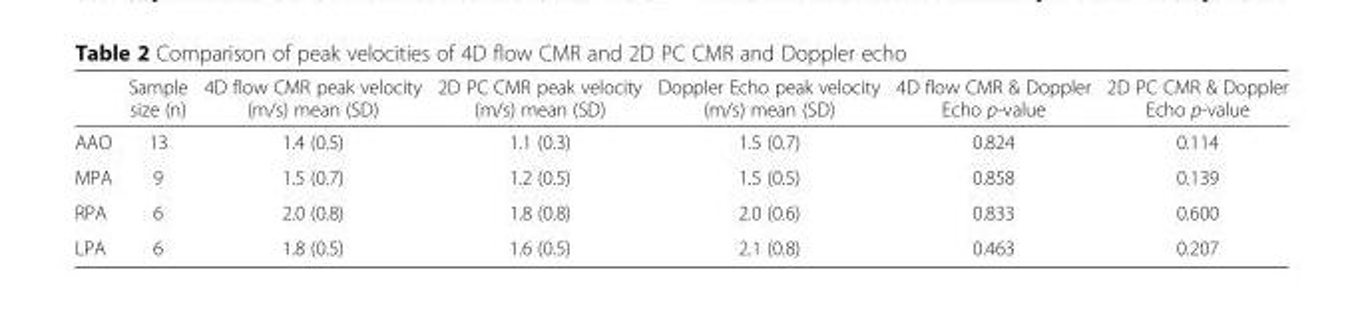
<table><thead><tr><td></td><td>Sample size (n)</td><td>4D flow CMR peak velocity (m/s) mean (SD)</td><td>2D PC CMR peak velocity (m/s) mean (SD)</td><td>Doppler Echo peak velocity (m/s) mean (SD)</td><td>4D flow CMR &amp; Doppler Echo p-value</td><td>2D PC CMR &amp; Doppler Echo p-value</td></tr></thead><tbody><tr><td>AAO</td><td>13</td><td>1.4 (0.5)</td><td>1.1 (0.3)</td><td>1.5 (0.7)</td><td>0.824</td><td>0.114</td></tr><tr><td>MPA</td><td>9</td><td>1.5 (0.7)</td><td>1.2 (0.5)</td><td>1.5 (0.5)</td><td>0.858</td><td>0.139</td></tr><tr><td>RPA</td><td>6</td><td>2.0 (0.8)</td><td>1.8 (0.8)</td><td>2.0 (0.6)</td><td>0.833</td><td>0.600</td></tr><tr><td>LPA</td><td>6</td><td>1.8 (0.5)</td><td>1.6 (0.5)</td><td>2.1 (0.8)</td><td>0.463</td><td>0.207</td></tr></tbody></table>